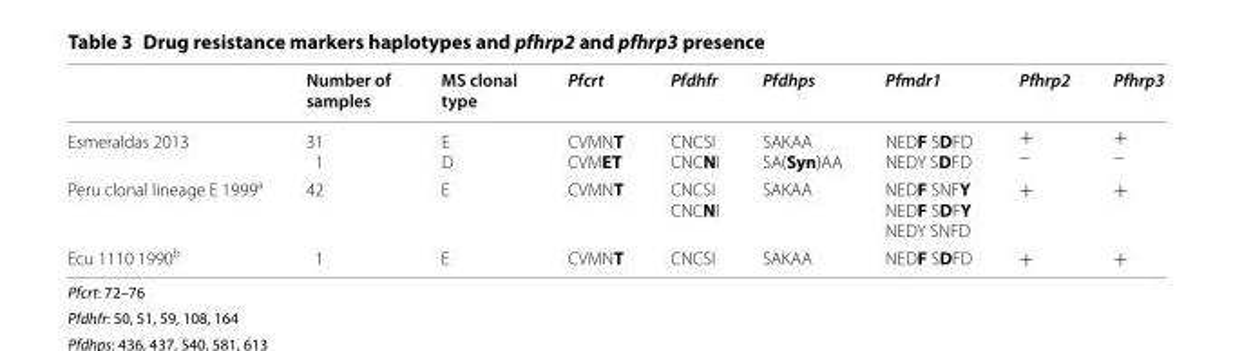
<table><thead><tr><td></td><td>Number of samples</td><td>MS clonal type</td><td>Pfcrt</td><td>Pfdhfr</td><td>Pfdhps</td><td>Pfmdr1</td><td>Pfhrp2</td><td>Pfhrp3</td></tr></thead><tbody><tr><td>Esmeraldas 2013</td><td>31 1</td><td>E D</td><td>CVMNT CVMET</td><td>CNCSI CNCNI</td><td>SAKAA SA(Syn)AA</td><td>NEDF SDFD NEDY SDFD</td><td>+ −</td><td>+ −</td></tr><tr><td>Peru clonal lineage E 1999<sup>a</sup></td><td>42</td><td>E</td><td>CVMNT</td><td>CNCSI CNCNI</td><td>SAKAA</td><td>NEDF SNFY NEDF SDFY NEDY SNFD</td><td>+</td><td>+</td></tr><tr><td>Ecu 1110 1990<sup>b</sup></td><td>1</td><td>E</td><td>CVMNT</td><td>CNCSI</td><td>SAKAA</td><td>NEDF SDFD</td><td>+</td><td>+</td></tr></tbody></table>